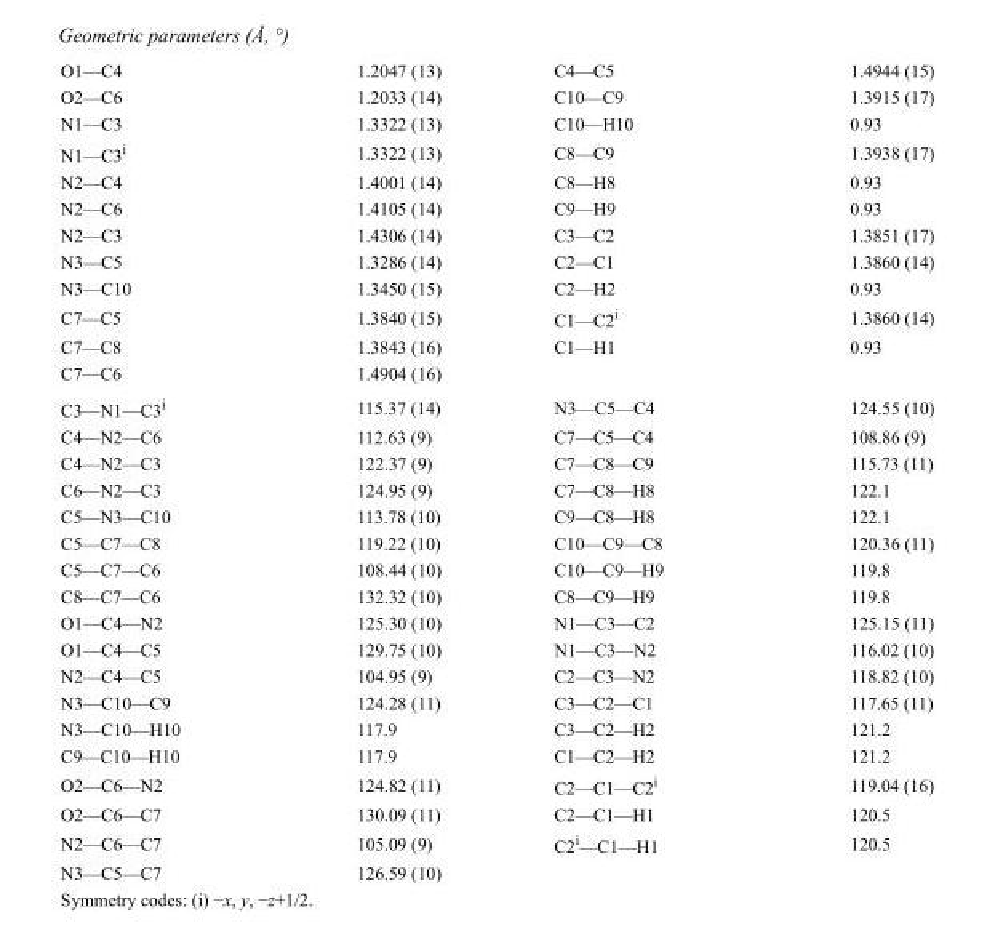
<table><tbody><tr><td>O1—C4</td><td>1.2047 (13)</td><td>C4—C5</td><td>1.4944 (15)</td></tr><tr><td>O2—C6</td><td>1.2033 (14)</td><td>C10—C9</td><td>1.3915 (17)</td></tr><tr><td>N1—C3</td><td>1.3322 (13)</td><td>C10—H10</td><td>0.93</td></tr><tr><td>N1—C3<sup>i</sup></td><td>1.3322 (13)</td><td>C8—C9</td><td>1.3938 (17)</td></tr><tr><td>N2—C4</td><td>1.4001 (14)</td><td>C8—H8</td><td>0.93</td></tr><tr><td>N2—C6</td><td>1.4105 (14)</td><td>C9—H9</td><td>0.93</td></tr><tr><td>N2—C3</td><td>1.4306 (14)</td><td>C3—C2</td><td>1.3851 (17)</td></tr><tr><td>N3—C5</td><td>1.3286 (14)</td><td>C2—C1</td><td>1.3860 (14)</td></tr><tr><td>N3—C10</td><td>1.3450 (15)</td><td>C2—H2</td><td>0.93</td></tr><tr><td>C7—C5</td><td>1.3840 (15)</td><td>C1—C2<sup>i</sup></td><td>1.3860 (14)</td></tr><tr><td>C7—C8</td><td>1.3843 (16)</td><td>C1—H1</td><td>0.93</td></tr><tr><td>C7—C6</td><td>1.4904 (16)</td><td></td><td></td></tr><tr><td>C3—N1—C3<sup>i</sup></td><td>115.37 (14)</td><td>N3—C5—C4</td><td>124.55 (10)</td></tr><tr><td>C4—N2—C6</td><td>112.63 (9)</td><td>C7—C5—C4</td><td>108.86 (9)</td></tr><tr><td>C4—N2—C3</td><td>122.37 (9)</td><td>C7—C8—C9</td><td>115.73 (11)</td></tr><tr><td>C6—N2—C3</td><td>124.95 (9)</td><td>C7—C8—H8</td><td>122.1</td></tr><tr><td>C5—N3—C10</td><td>113.78 (10)</td><td>C9—C8—H8</td><td>122.1</td></tr><tr><td>C5—C7—C8</td><td>119.22 (10)</td><td>C10—C9—C8</td><td>120.36 (11)</td></tr><tr><td>C5—C7—C6</td><td>108.44 (10)</td><td>C10—C9—H9</td><td>119.8</td></tr><tr><td>C8—C7—C6</td><td>132.32 (10)</td><td>C8—C9—H9</td><td>119.8</td></tr><tr><td>O1—C4—N2</td><td>125.30 (10)</td><td>N1—C3—C2</td><td>125.15 (11)</td></tr><tr><td>O1—C4—C5</td><td>129.75 (10)</td><td>N1—C3—N2</td><td>116.02 (10)</td></tr><tr><td>N2—C4—C5</td><td>104.95 (9)</td><td>C2—C3—N2</td><td>118.82 (10)</td></tr><tr><td>N3—C10—C9</td><td>124.28 (11)</td><td>C3—C2—C1</td><td>117.65 (11)</td></tr><tr><td>N3—C10—H10</td><td>117.9</td><td>C3—C2—H2</td><td>121.2</td></tr><tr><td>C9—C10—H10</td><td>117.9</td><td>C1—C2—H2</td><td>121.2</td></tr><tr><td>O2—C6—N2</td><td>124.82 (11)</td><td>C2—C1—C2<sup>i</sup></td><td>119.04 (16)</td></tr><tr><td>O2—C6—C7</td><td>130.09 (11)</td><td>C2—C1—H1</td><td>120.5</td></tr><tr><td>N2—C6—C7</td><td>105.09 (9)</td><td>C2<sup>i</sup>—C1—H1</td><td>120.5</td></tr><tr><td>N3—C5—C7</td><td>126.59 (10)</td><td></td><td></td></tr></tbody></table>